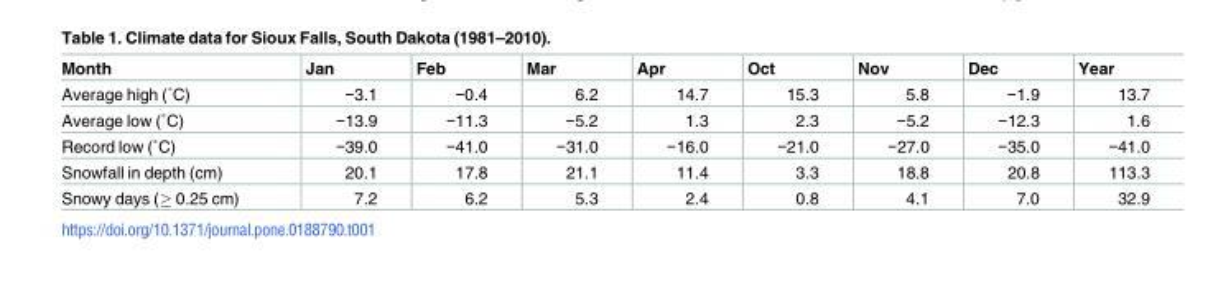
<table><thead><tr><td>Month</td><td>Jan</td><td>Feb</td><td>Mar</td><td>Apr</td><td>Oct</td><td>Nov</td><td>Dec</td><td>Year</td></tr></thead><tbody><tr><td>Average high (˚C)</td><td>−3.1</td><td>−0.4</td><td>6.2</td><td>14.7</td><td>15.3</td><td>5.8</td><td>−1.9</td><td>13.7</td></tr><tr><td>Average low (˚C)</td><td>−13.9</td><td>−11.3</td><td>−5.2</td><td>1.3</td><td>2.3</td><td>−5.2</td><td>−12.3</td><td>1.6</td></tr><tr><td>Record low (˚C)</td><td>−39.0</td><td>−41.0</td><td>−31.0</td><td>−16.0</td><td>−21.0</td><td>−27.0</td><td>−35.0</td><td>−41.0</td></tr><tr><td>Snowfall in depth (cm)</td><td>20.1</td><td>17.8</td><td>21.1</td><td>11.4</td><td>3.3</td><td>18.8</td><td>20.8</td><td>113.3</td></tr><tr><td>Snowy days (≥ 0.25 cm)</td><td>7.2</td><td>6.2</td><td>5.3</td><td>2.4</td><td>0.8</td><td>4.1</td><td>7.0</td><td>32.9</td></tr></tbody></table>